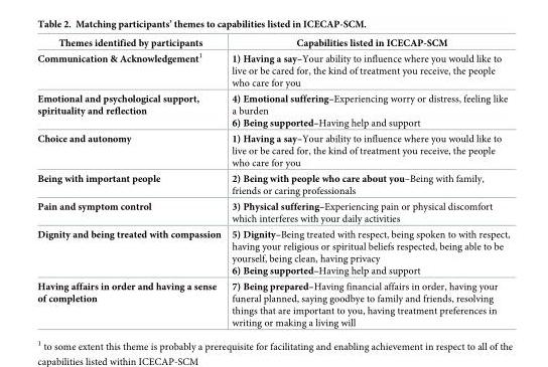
<table><thead><tr><td>Themes identified by participants</td><td>Capabilities listed in ICECAP-SCM</td></tr></thead><tbody><tr><td>Communication &amp; Acknowledgement<sup>1</sup></td><td>1) Having a say–Your ability to influence where you would like to live or be cared for, the kind of treatment you receive, the people who care for you</td></tr><tr><td>Emotional and psychological support, spirituality and reflection</td><td>4) Emotional suffering–Experiencing worry or distress, feeling like a burden 6) Being supported–Having help and support</td></tr><tr><td>Choice and autonomy</td><td>1) Having a say–Your ability to influence where you would like to live or be cared for, the kind of treatment you receive, the people who care for you</td></tr><tr><td>Being with important people</td><td>2) Being with people who care about you–Being with family, friends or caring professionals</td></tr><tr><td>Pain and symptom control</td><td>3) Physical suffering–Experiencing pain or physical discomfort which interferes with your daily activities</td></tr><tr><td>Dignity and being treated with compassion</td><td>5) Dignity–Being treated with respect, being spoken to with respect, having your religious or spiritual beliefs respected, being able to be yourself, being clean, having privacy 6) Being supported–Having help and support</td></tr><tr><td>Having affairs in order and having a sense of completion</td><td>7) Being prepared–Having financial affairs in order, having your funeral planned, saying goodbye to family and friends, resolving things that are important to you, having treatment preferences in writing or making a living will</td></tr></tbody></table>